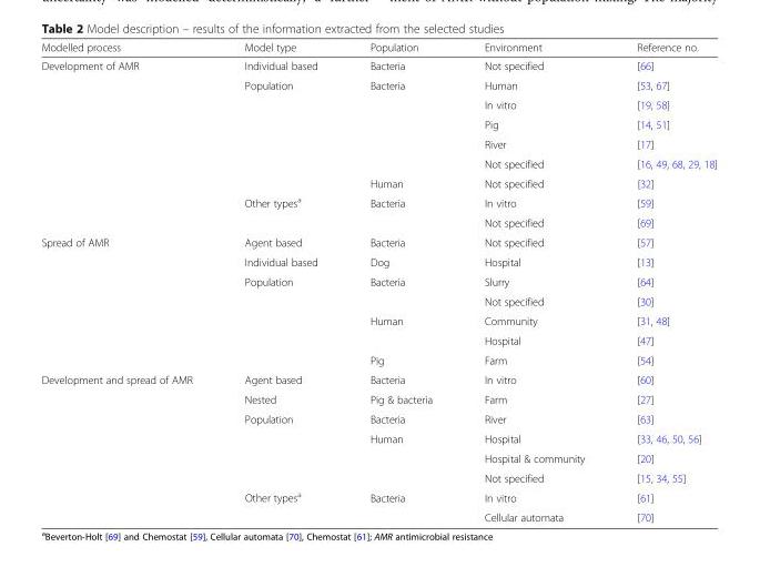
<table><thead><tr><td>Modelled process</td><td>Model type</td><td>Population</td><td>Environment</td><td>Reference no.</td></tr></thead><tbody><tr><td rowspan="9">Development of AMR</td><td>Individual based</td><td>Bacteria</td><td>Not specified</td><td>[66]</td></tr><tr><td rowspan="6">Population</td><td rowspan="5">Bacteria</td><td>Human</td><td>[53, 67]</td></tr><tr><td>In vitro</td><td>[19, 58]</td></tr><tr><td>Pig</td><td>[14, 51]</td></tr><tr><td>River</td><td>[17]</td></tr><tr><td>Not specified</td><td>[16, 49, 68, 29, 18]</td></tr><tr><td>Human</td><td>Not specified</td><td>[32]</td></tr><tr><td rowspan="2">Other types<sup>a</sup></td><td rowspan="2">Bacteria</td><td>In vitro</td><td>[59]</td></tr><tr><td>Not specified</td><td>[69]</td></tr><tr><td rowspan="7">Spread of AMR</td><td>Agent based</td><td>Bacteria</td><td>Not specified</td><td>[57]</td></tr><tr><td>Individual based</td><td>Dog</td><td>Hospital</td><td>[13]</td></tr><tr><td rowspan="5">Population</td><td rowspan="2">Bacteria</td><td>Slurry</td><td>[64]</td></tr><tr><td>Not specified</td><td>[30]</td></tr><tr><td rowspan="2">Human</td><td>Community</td><td>[31, 48]</td></tr><tr><td>Hospital</td><td>[47]</td></tr><tr><td>Pig</td><td>Farm</td><td>[54]</td></tr><tr><td rowspan="8">Development and spread of AMR</td><td>Agent based</td><td>Bacteria</td><td>In vitro</td><td>[60]</td></tr><tr><td>Nested</td><td>Pig &amp; bacteria</td><td>Farm</td><td>[27]</td></tr><tr><td rowspan="4">Population</td><td>Bacteria</td><td>River</td><td>[63]</td></tr><tr><td rowspan="3">Human</td><td>Hospital</td><td>[33, 46, 50, 56]</td></tr><tr><td>Hospital &amp; community</td><td>[20]</td></tr><tr><td>Not specified</td><td>[15, 34, 55]</td></tr><tr><td rowspan="2">Other types<sup>a</sup></td><td rowspan="2">Bacteria</td><td>In vitro</td><td>[61]</td></tr><tr><td>Cellular automata</td><td>[70]</td></tr></tbody></table>